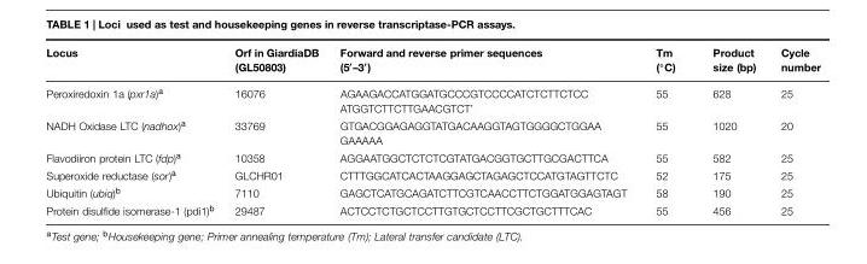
<table><thead><tr><td>Locus</td><td>Orf in GiardiaDB (GL50803)</td><td>Forward and reverse primer sequences (5<sup>′</sup>–3<sup>′</sup>)</td><td>Tm (◦C)</td><td>Product size (bp)</td><td>Cycle number</td></tr></thead><tbody><tr><td>Peroxiredoxin 1a (pxr1a)<sup>a</sup></td><td>16076</td><td>AGAAGACCATGGATGCCCGTCCCCATCTCTTCTCC ATGGTCTTCTTGAACGTCT’</td><td>55</td><td>628</td><td>25</td></tr><tr><td>NADH Oxidase LTC (nadhox)<sup>a</sup></td><td>33769</td><td>GTGACGGAGAGGTATGACAAGGTAGTGGGGCTGGAA GAAAAA</td><td>55</td><td>1020</td><td>20</td></tr><tr><td>Flavodiiron protein LTC (fdp)<sup>a</sup></td><td>10358</td><td>AGGAATGGCTCTCTCGTATGACGGTGCTTGCGACTTCA</td><td>55</td><td>582</td><td>25</td></tr><tr><td>Superoxide reductase (sor)<sup>a</sup></td><td>GLCHR01</td><td>CTTTGGCATCACTAAGGAGCTAGAGCTCCATGTAGTTCTC</td><td>52</td><td>175</td><td>25</td></tr><tr><td>Ubiquitin (ubiq)<sup>b</sup></td><td>7110</td><td>GAGCTCATGCAGATCTTCGTCAACCTTCTGGATGGAGTAGT</td><td>58</td><td>190</td><td>25</td></tr><tr><td>Protein disulfide isomerase-1 (pdi1)<sup>b</sup></td><td>29487</td><td>ACTCCTCTGCTCCTTGTGCTCCTTCGCTGCTTTCAC</td><td>55</td><td>456</td><td>25</td></tr></tbody></table>